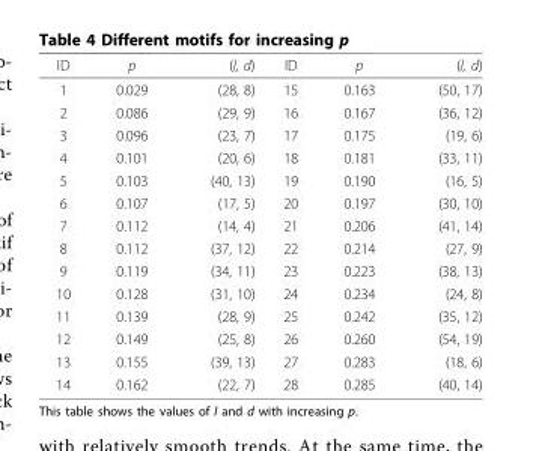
<table><thead><tr><td>ID</td><td>p</td><td>(l, d)</td><td>ID</td><td>p</td><td>(l, d)</td></tr></thead><tbody><tr><td>1</td><td>0.029</td><td>(28, 8)</td><td>15</td><td>0.163</td><td>(50, 17)</td></tr><tr><td>2</td><td>0.086</td><td>(29, 9)</td><td>16</td><td>0.167</td><td>(36, 12)</td></tr><tr><td>3</td><td>0.096</td><td>(23, 7)</td><td>17</td><td>0.175</td><td>(19, 6)</td></tr><tr><td>4</td><td>0.101</td><td>(20, 6)</td><td>18</td><td>0.181</td><td>(33, 11)</td></tr><tr><td>5</td><td>0.103</td><td>(40, 13)</td><td>19</td><td>0.190</td><td>(16, 5)</td></tr><tr><td>6</td><td>0.107</td><td>(17, 5)</td><td>20</td><td>0.197</td><td>(30, 10)</td></tr><tr><td>7</td><td>0.112</td><td>(14, 4)</td><td>21</td><td>0.206</td><td>(41, 14)</td></tr><tr><td>8</td><td>0.112</td><td>(37, 12)</td><td>22</td><td>0.214</td><td>(27, 9)</td></tr><tr><td>9</td><td>0.119</td><td>(34, 11)</td><td>23</td><td>0.223</td><td>(38, 13)</td></tr><tr><td>10</td><td>0.128</td><td>(31, 10)</td><td>24</td><td>0.234</td><td>(24, 8)</td></tr><tr><td>11</td><td>0.139</td><td>(28, 9)</td><td>25</td><td>0.242</td><td>(35, 12)</td></tr><tr><td>12</td><td>0.149</td><td>(25, 8)</td><td>26</td><td>0.260</td><td>(54, 19)</td></tr><tr><td>13</td><td>0.155</td><td>(39, 13)</td><td>27</td><td>0.283</td><td>(18, 6)</td></tr><tr><td>14</td><td>0.162</td><td>(22, 7)</td><td>28</td><td>0.285</td><td>(40, 14)</td></tr></tbody></table>